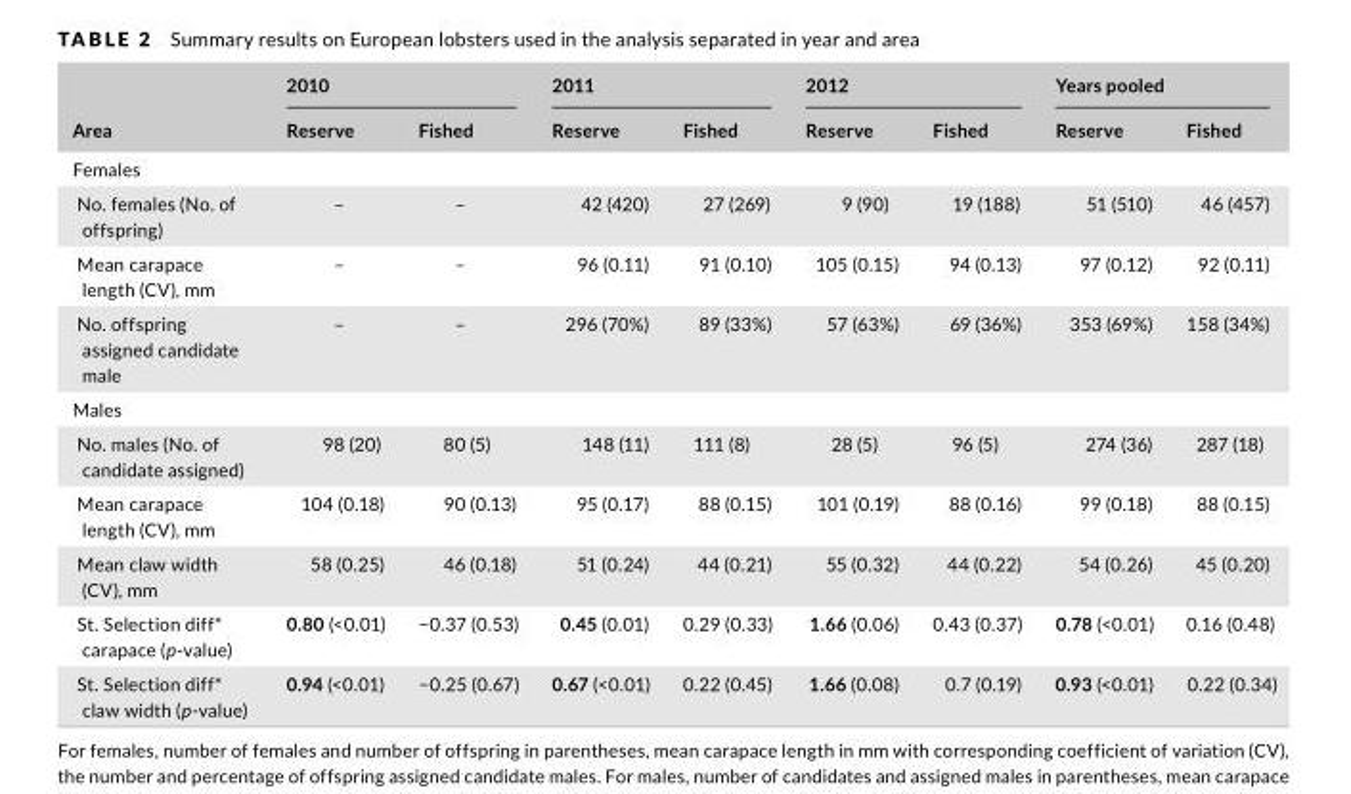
<table><thead><tr><td rowspan="2">Area</td><td colspan="2">2010</td><td colspan="2">2011</td><td colspan="2">2012</td><td colspan="2">Years pooled</td></tr><tr><td>Reserve</td><td>Fished</td><td>Reserve</td><td>Fished</td><td>Reserve</td><td>Fished</td><td>Reserve</td><td>Fished</td></tr></thead><tbody><tr><td colspan="9">Females</td></tr><tr><td>No. females (No. of offspring)</td><td>–</td><td>–</td><td>42 (420)</td><td>27 (269)</td><td>9 (90)</td><td>19 (188)</td><td>51 (510)</td><td>46 (457)</td></tr><tr><td>Mean carapace length (CV), mm</td><td>–</td><td>–</td><td>96 (0.11)</td><td>91 (0.10)</td><td>105 (0.15)</td><td>94 (0.13)</td><td>97 (0.12)</td><td>92 (0.11)</td></tr><tr><td>No. offspring assigned candidate male</td><td>–</td><td>–</td><td>296 (70%)</td><td>89 (33%)</td><td>57 (63%)</td><td>69 (36%)</td><td>353 (69%)</td><td>158 (34%)</td></tr><tr><td colspan="9">Males</td></tr><tr><td>No. males (No. of candidate assigned)</td><td>98 (20)</td><td>80 (5)</td><td>148 (11)</td><td>111 (8)</td><td>28 (5)</td><td>96 (5)</td><td>274 (36)</td><td>287 (18)</td></tr><tr><td>Mean carapace length (CV), mm</td><td>104 (0.18)</td><td>90 (0.13)</td><td>95 (0.17)</td><td>88 (0.15)</td><td>101 (0.19)</td><td>88 (0.16)</td><td>99 (0.18)</td><td>88 (0.15)</td></tr><tr><td>Mean claw width (CV), mm</td><td>58 (0.25)</td><td>46 (0.18)</td><td>51 (0.24)</td><td>44 (0.21)</td><td>55 (0.32)</td><td>44 (0.22)</td><td>54 (0.26)</td><td>45 (0.20)</td></tr><tr><td>St. Selection diff* carapace (p- value)</td><td>0.80 (&lt;0.01)</td><td>−0.37 (0.53)</td><td>0.45 (0.01)</td><td>0.29 (0.33)</td><td>1.66 (0.06)</td><td>0.43 (0.37)</td><td>0.78 (&lt;0.01)</td><td>0.16 (0.48)</td></tr><tr><td>St. Selection diff* claw width (p- value)</td><td>0.94 (&lt;0.01)</td><td>−0.25 (0.67)</td><td>0.67 (&lt;0.01)</td><td>0.22 (0.45)</td><td>1.66 (0.08)</td><td>0.7 (0.19)</td><td>0.93 (&lt;0.01)</td><td>0.22 (0.34)</td></tr></tbody></table>